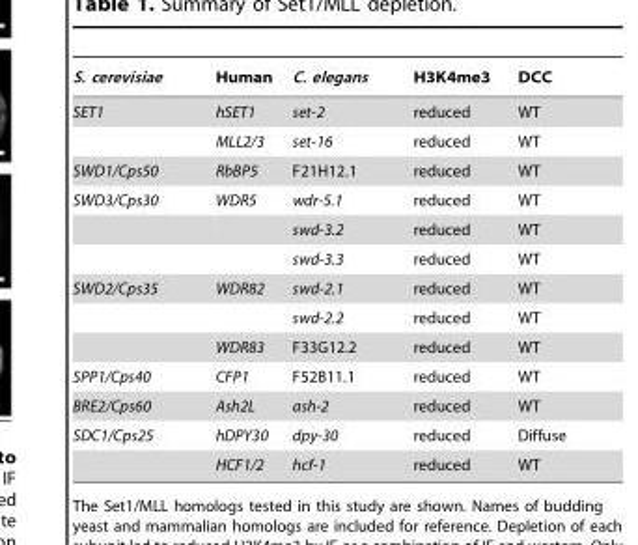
<table><thead><tr><td>S. cerevisiae</td><td>Human</td><td>C. elegans</td><td>H3K4me3</td><td>DCC</td></tr></thead><tbody><tr><td rowspan="2">SET1</td><td>hSET1</td><td>set-2</td><td>reduced</td><td>WT</td></tr><tr><td>MLL2/3</td><td>set-16</td><td>reduced</td><td>WT</td></tr><tr><td>SWD1/Cps50</td><td>RbBP5</td><td>F21H12.1</td><td>reduced</td><td>WT</td></tr><tr><td rowspan="3">SWD3/Cps30</td><td>WDR5</td><td>wdr-5.1</td><td>reduced</td><td>WT</td></tr><tr><td></td><td>swd-3.2</td><td>reduced</td><td>WT</td></tr><tr><td></td><td>swd-3.3</td><td>reduced</td><td>WT</td></tr><tr><td rowspan="3">SWD2/Cps35</td><td>WDR82</td><td>swd-2.1</td><td>reduced</td><td>WT</td></tr><tr><td></td><td>swd-2.2</td><td>reduced</td><td>WT</td></tr><tr><td>WDR83</td><td>F33G12.2</td><td>reduced</td><td>WT</td></tr><tr><td>SPP1/Cps40</td><td>CFP1</td><td>F52B11.1</td><td>reduced</td><td>WT</td></tr><tr><td>BRE2/Cps60</td><td>Ash2L</td><td>ash-2</td><td>reduced</td><td>WT</td></tr><tr><td rowspan="2">SDC1/Cps25</td><td>hDPY30</td><td>dpy-30</td><td>reduced</td><td>Diffuse</td></tr><tr><td>HCF1/2</td><td>hcf-1</td><td>reduced</td><td>WT</td></tr></tbody></table>